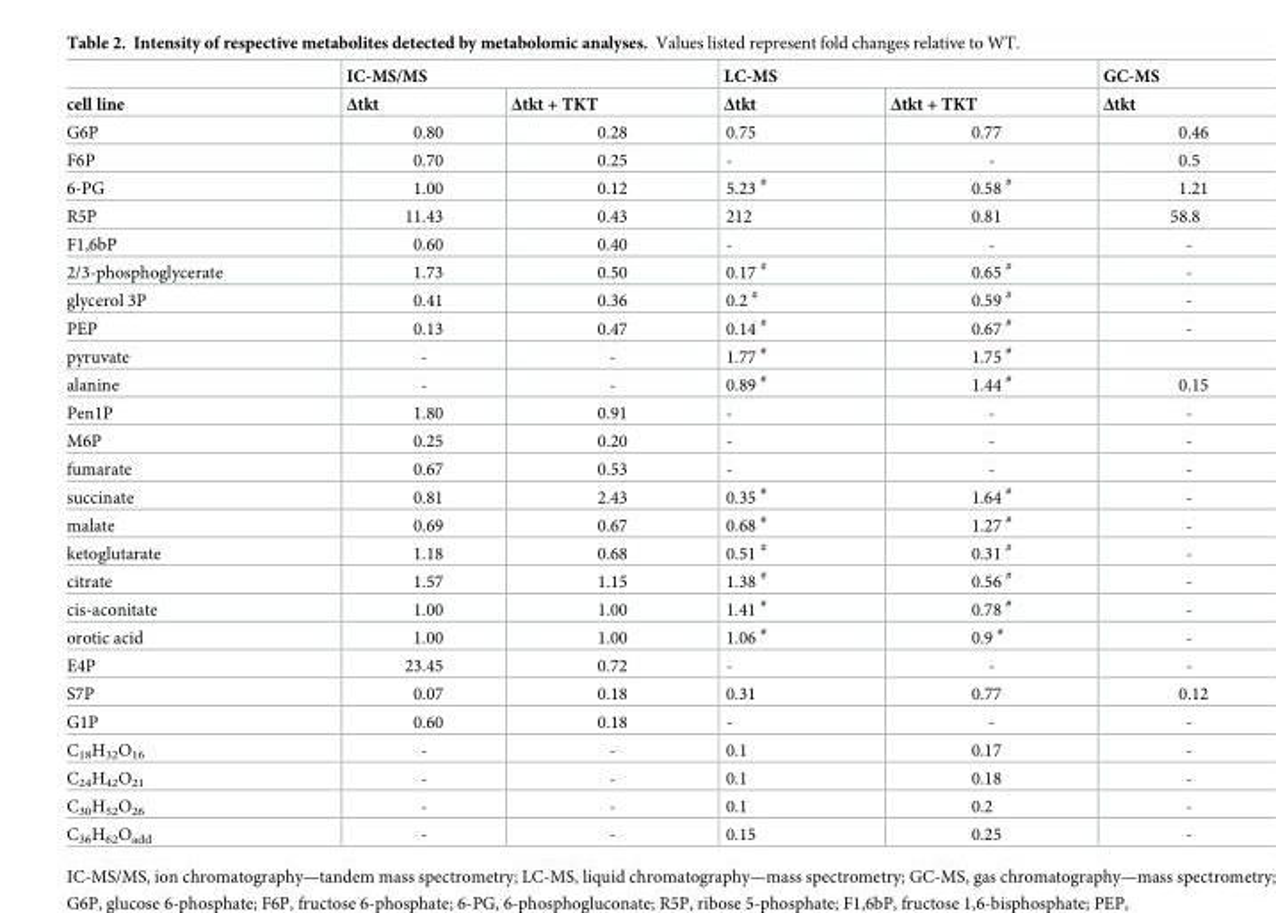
<table><thead><tr><td rowspan="2">cell line</td><td colspan="2">IC-MS/MS</td><td colspan="2">LC-MS</td><td rowspan="2">GC-MS Δtkt</td></tr><tr><td>Δtkt</td><td>Δtkt + TKT</td><td>Δtkt</td><td>Δtkt + TKT</td></tr></thead><tbody><tr><td>G6P</td><td>0.80</td><td>0.28</td><td>0.75</td><td>0.77</td><td>0.46</td></tr><tr><td>F6P</td><td>0.70</td><td>0.25</td><td>-</td><td>-</td><td>0.5</td></tr><tr><td>6-PG</td><td>1.00</td><td>0.12</td><td>5.23 <sup>#</sup></td><td>0.58 <sup>#</sup></td><td>1.21</td></tr><tr><td>R5P</td><td>11.43</td><td>0.43</td><td>212</td><td>0.81</td><td>58.8</td></tr><tr><td>F1,6bP</td><td>0.60</td><td>0.40</td><td>-</td><td>-</td><td>-</td></tr><tr><td>2/3-phosphoglycerate</td><td>1.73</td><td>0.50</td><td>0.17 <sup>#</sup></td><td>0.65 <sup>#</sup></td><td>-</td></tr><tr><td>glycerol 3P</td><td>0.41</td><td>0.36</td><td>0.2 <sup>#</sup></td><td>0.59 <sup>#</sup></td><td>-</td></tr><tr><td>PEP</td><td>0.13</td><td>0.47</td><td>0.14 <sup>#</sup></td><td>0.67 <sup>#</sup></td><td>-</td></tr><tr><td>pyruvate</td><td>-</td><td>-</td><td>1.77 <sup>#</sup></td><td>1.75 <sup>#</sup></td><td></td></tr><tr><td>alanine</td><td>-</td><td>-</td><td>0.89 <sup>#</sup></td><td>1.44 <sup>#</sup></td><td>0.15</td></tr><tr><td>Pen1P</td><td>1.80</td><td>0.91</td><td>-</td><td>-</td><td>-</td></tr><tr><td>M6P</td><td>0.25</td><td>0.20</td><td>-</td><td>-</td><td>-</td></tr><tr><td>fumarate</td><td>0.67</td><td>0.53</td><td>-</td><td>-</td><td>-</td></tr><tr><td>succinate</td><td>0.81</td><td>2.43</td><td>0.35 <sup>#</sup></td><td>1.64 <sup>#</sup></td><td>-</td></tr><tr><td>malate</td><td>0.69</td><td>0.67</td><td>0.68 <sup>#</sup></td><td>1.27 <sup>#</sup></td><td>-</td></tr><tr><td>ketoglutarate</td><td>1.18</td><td>0.68</td><td>0.51 <sup>#</sup></td><td>0.31 <sup>#</sup></td><td>-</td></tr><tr><td>citrate</td><td>1.57</td><td>1.15</td><td>1.38 <sup>#</sup></td><td>0.56 <sup>#</sup></td><td>-</td></tr><tr><td>cis-aconitate</td><td>1.00</td><td>1.00</td><td>1.41 <sup>#</sup></td><td>0.78 <sup>#</sup></td><td>-</td></tr><tr><td>orotic acid</td><td>1.00</td><td>1.00</td><td>1.06 <sup>#</sup></td><td>0.9 <sup>#</sup></td><td>-</td></tr><tr><td>E4P</td><td>23.45</td><td>0.72</td><td>-</td><td>-</td><td>-</td></tr><tr><td>S7P</td><td>0.07</td><td>0.18</td><td>0.31</td><td>0.77</td><td>0.12</td></tr><tr><td>G1P</td><td>0.60</td><td>0.18</td><td>-</td><td>-</td><td>-</td></tr><tr><td>C<sub>18</sub>H<sub>32</sub>O<sub>16</sub></td><td>-</td><td>-</td><td>0.1</td><td>0.17</td><td>-</td></tr><tr><td>C<sub>24</sub>H<sub>42</sub>O<sub>21</sub></td><td>-</td><td>-</td><td>0.1</td><td>0.18</td><td>-</td></tr><tr><td>C<sub>30</sub>H<sub>52</sub>O<sub>26</sub></td><td>-</td><td>-</td><td>0.1</td><td>0.2</td><td>-</td></tr><tr><td>C<sub>36</sub>H<sub>62</sub>O<sub>add</sub></td><td>-</td><td>-</td><td>0.15</td><td>0.25</td><td>-</td></tr></tbody></table>